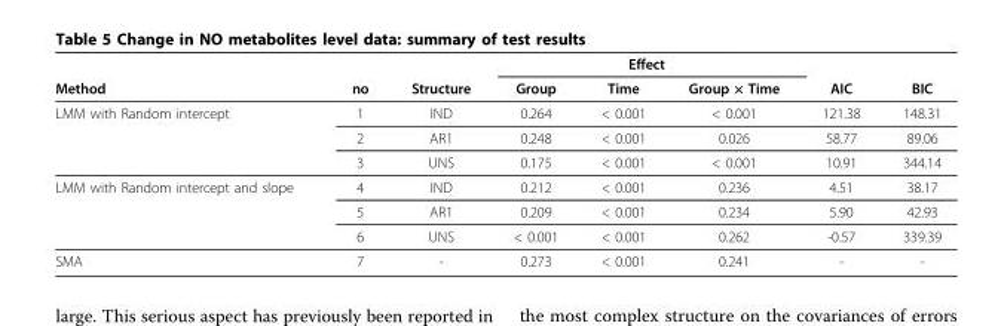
<table><thead><tr><td rowspan="2">Method</td><td rowspan="2">no</td><td rowspan="2">Structure</td><td colspan="3">Effect</td><td rowspan="2">AIC</td><td rowspan="2">BIC</td></tr><tr><td>Group</td><td>Time</td><td>Group × Time</td></tr></thead><tbody><tr><td rowspan="3">LMM with Random intercept</td><td>1</td><td>IND</td><td>0.264</td><td>&lt; 0.001</td><td>&lt; 0.001</td><td>121.38</td><td>148.31</td></tr><tr><td>2</td><td>AR1</td><td>0.248</td><td>&lt; 0.001</td><td>0.026</td><td>58.77</td><td>89.06</td></tr><tr><td>3</td><td>UNS</td><td>0.175</td><td>&lt; 0.001</td><td>&lt; 0.001</td><td>10.91</td><td>344.14</td></tr><tr><td rowspan="3">LMM with Random intercept and slope</td><td>4</td><td>IND</td><td>0.212</td><td>&lt; 0.001</td><td>0.236</td><td>4.51</td><td>38.17</td></tr><tr><td>5</td><td>AR1</td><td>0.209</td><td>&lt; 0.001</td><td>0.234</td><td>5.90</td><td>42.93</td></tr><tr><td>6</td><td>UNS</td><td>&lt; 0.001</td><td>&lt; 0.001</td><td>0.262</td><td>-0.57</td><td>339.39</td></tr><tr><td>SMA</td><td>7</td><td>-</td><td>0.273</td><td>&lt; 0.001</td><td>0.241</td><td>-</td><td>-</td></tr></tbody></table>